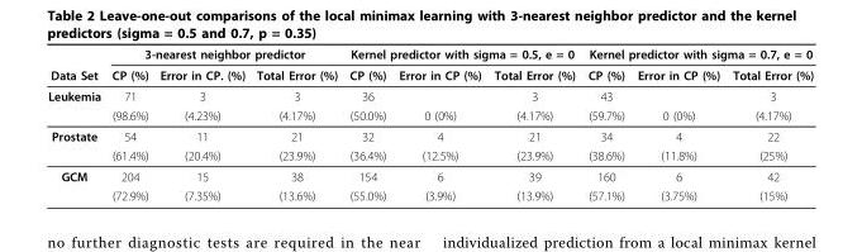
<table><thead><tr><td rowspan="2">Data Set</td><td colspan="3">3-nearest neighbor predictor</td><td colspan="3">Kernel predictor with sigma = 0.5, e = 0</td><td colspan="3">Kernel predictor with sigma = 0.7, e = 0</td></tr><tr><td>CP (%)</td><td>Error in CP. (%)</td><td>Total Error (%)</td><td>CP (%)</td><td>Error in CP (%)</td><td>Total Error (%)</td><td>CP (%)</td><td>Error in CP (%)</td><td>Total Error (%)</td></tr></thead><tbody><tr><td rowspan="2">Leukemia</td><td>71</td><td>3</td><td>3</td><td>36</td><td></td><td>3</td><td>43</td><td></td><td>3</td></tr><tr><td>(98.6%)</td><td>(4.23%)</td><td>(4.17%)</td><td>(50.0%)</td><td>0 (0%)</td><td>(4.17%)</td><td>(59.7%)</td><td>0 (0%)</td><td>(4.17%)</td></tr><tr><td rowspan="2">Prostate</td><td>54</td><td>11</td><td>21</td><td>32</td><td>4</td><td>21</td><td>34</td><td>4</td><td>22</td></tr><tr><td>(61.4%)</td><td>(20.4%)</td><td>(23.9%)</td><td>(36.4%)</td><td>(12.5%)</td><td>(23.9%)</td><td>(38.6%)</td><td>(11.8%)</td><td>(25%)</td></tr><tr><td rowspan="2">GCM</td><td>204</td><td>15</td><td>38</td><td>154</td><td>6</td><td>39</td><td>160</td><td>6</td><td>42</td></tr><tr><td>(72.9%)</td><td>(7.35%)</td><td>(13.6%)</td><td>(55.0%)</td><td>(3.9%)</td><td>(13.9%)</td><td>(57.1%)</td><td>(3.75%)</td><td>(15%)</td></tr></tbody></table>